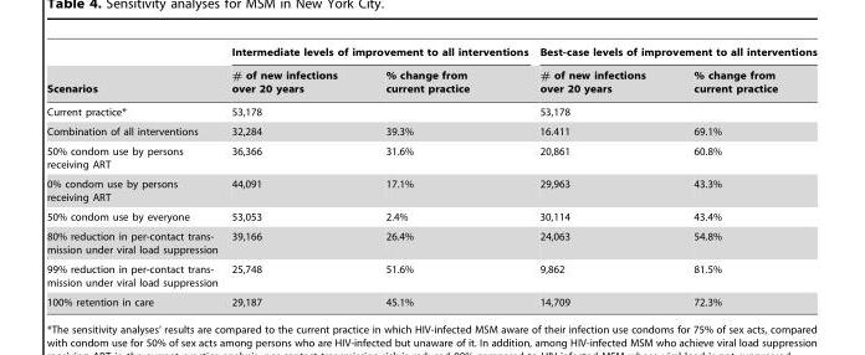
<table><thead><tr><td rowspan="2">Scenarios</td><td colspan="2">Intermediate levels of improvement to all interventions</td><td colspan="2">Best-case levels of improvement to all interventions</td></tr><tr><td># of new infections over 20 years</td><td>% change from current practice</td><td># of new infections over 20 years</td><td>% change from current practice</td></tr></thead><tbody><tr><td>Current practice*</td><td>53,178</td><td></td><td>53,178</td><td></td></tr><tr><td>Combination of all interventions</td><td>32,284</td><td>39.3%</td><td>16.411</td><td>69.1%</td></tr><tr><td>50% condom use by persons receiving ART</td><td>36,366</td><td>31.6%</td><td>20,861</td><td>60.8%</td></tr><tr><td>0% condom use by persons receiving ART</td><td>44,091</td><td>17.1%</td><td>29,963</td><td>43.3%</td></tr><tr><td>50% condom use by everyone</td><td>53,053</td><td>2.4%</td><td>30,114</td><td>43.4%</td></tr><tr><td>80% reduction in per-contact trans- mission under viral load suppression</td><td>39,166</td><td>26.4%</td><td>24,063</td><td>54.8%</td></tr><tr><td>99% reduction in per-contact trans- mission under viral load suppression</td><td>25,748</td><td>51.6%</td><td>9,862</td><td>81.5%</td></tr><tr><td>100% retention in care</td><td>29,187</td><td>45.1%</td><td>14,709</td><td>72.3%</td></tr></tbody></table>